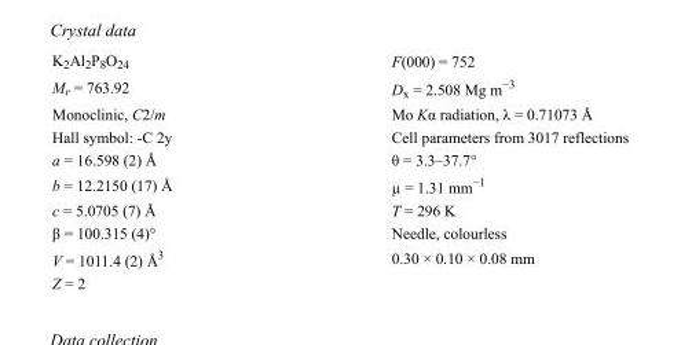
<table><tbody><tr><td>K<sub>2</sub>Al<sub>2</sub>P<sub>8</sub>O<sub>24</sub></td><td>F(000) = 752</td></tr><tr><td>M<sub>r</sub> = 763.92</td><td>D<sub>x</sub> = 2.508 Mg m<sup>−3</sup></td></tr><tr><td>Monoclinic, C2/m</td><td>Mo Kα radiation, λ = 0.71073 Å</td></tr><tr><td>Hall symbol: -C 2y</td><td>Cell parameters from 3017 reflections</td></tr><tr><td>a = 16.598 (2) Å</td><td>θ = 3.3–37.7°</td></tr><tr><td>b = 12.2150 (17) Å</td><td>µ = 1.31 mm<sup>−1</sup></td></tr><tr><td>c = 5.0705 (7) Å</td><td>T = 296 K</td></tr><tr><td>β = 100.315 (4)°</td><td>Needle, colourless</td></tr><tr><td>V = 1011.4 (2) Å<sup>3</sup></td><td>0.30 × 0.10 × 0.08 mm</td></tr><tr><td>Z = 2</td><td></td></tr></tbody></table>